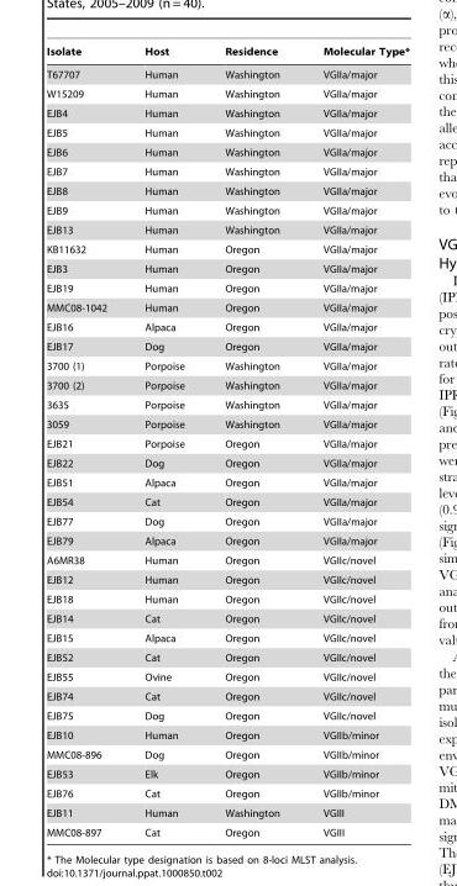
<table><thead><tr><td>Isolate</td><td>Host</td><td>Residence</td><td>Molecular Type*</td></tr></thead><tbody><tr><td>T67707</td><td>Human</td><td>Washington</td><td>VGIIa/major</td></tr><tr><td>W15209</td><td>Human</td><td>Washington</td><td>VGIIa/major</td></tr><tr><td>EJB4</td><td>Human</td><td>Washington</td><td>VGIIa/major</td></tr><tr><td>EJB5</td><td>Human</td><td>Washington</td><td>VGIIa/major</td></tr><tr><td>EJB6</td><td>Human</td><td>Washington</td><td>VGIIa/major</td></tr><tr><td>EJB7</td><td>Human</td><td>Washington</td><td>VGIIa/major</td></tr><tr><td>EJB8</td><td>Human</td><td>Washington</td><td>VGIIa/major</td></tr><tr><td>EJB9</td><td>Human</td><td>Washington</td><td>VGIIa/major</td></tr><tr><td>EJB13</td><td>Human</td><td>Washington</td><td>VGIIa/major</td></tr><tr><td>KB11632</td><td>Human</td><td>Oregon</td><td>VGIIa/major</td></tr><tr><td>EJB3</td><td>Human</td><td>Oregon</td><td>VGIIa/major</td></tr><tr><td>EJB19</td><td>Human</td><td>Oregon</td><td>VGIIa/major</td></tr><tr><td>MMC08-1042</td><td>Human</td><td>Oregon</td><td>VGIIa/major</td></tr><tr><td>EJB16</td><td>Alpaca</td><td>Oregon</td><td>VGIIa/major</td></tr><tr><td>EJB17</td><td>Dog</td><td>Oregon</td><td>VGIIa/major</td></tr><tr><td>3700 (1)</td><td>Porpoise</td><td>Washington</td><td>VGIIa/major</td></tr><tr><td>3700 (2)</td><td>Porpoise</td><td>Washington</td><td>VGIIa/major</td></tr><tr><td>3635</td><td>Porpoise</td><td>Washington</td><td>VGIIa/major</td></tr><tr><td>3059</td><td>Porpoise</td><td>Washington</td><td>VGIIa/major</td></tr><tr><td>EJB21</td><td>Porpoise</td><td>Oregon</td><td>VGIIa/major</td></tr><tr><td>EJB22</td><td>Dog</td><td>Oregon</td><td>VGIIa/major</td></tr><tr><td>EJB51</td><td>Alpaca</td><td>Oregon</td><td>VGIIa/major</td></tr><tr><td>EJB54</td><td>Cat</td><td>Oregon</td><td>VGIIa/major</td></tr><tr><td>EJB77</td><td>Dog</td><td>Oregon</td><td>VGIIa/major</td></tr><tr><td>EJB79</td><td>Alpaca</td><td>Oregon</td><td>VGIIa/major</td></tr><tr><td>A6MR38</td><td>Human</td><td>Oregon</td><td>VGIIc/novel</td></tr><tr><td>EJB12</td><td>Human</td><td>Oregon</td><td>VGIIc/novel</td></tr><tr><td>EJB18</td><td>Human</td><td>Oregon</td><td>VGIIc/novel</td></tr><tr><td>EJB14</td><td>Cat</td><td>Oregon</td><td>VGIIc/novel</td></tr><tr><td>EJB15</td><td>Alpaca</td><td>Oregon</td><td>VGIIc/novel</td></tr><tr><td>EJB52</td><td>Cat</td><td>Oregon</td><td>VGIIc/novel</td></tr><tr><td>EJB55</td><td>Ovine</td><td>Oregon</td><td>VGIIc/novel</td></tr><tr><td>EJB74</td><td>Cat</td><td>Oregon</td><td>VGIIc/novel</td></tr><tr><td>EJB75</td><td>Dog</td><td>Oregon</td><td>VGIIc/novel</td></tr><tr><td>EJB10</td><td>Human</td><td>Oregon</td><td>VGIIb/minor</td></tr><tr><td>MMC08-896</td><td>Dog</td><td>Oregon</td><td>VGIIb/minor</td></tr><tr><td>EJB53</td><td>Elk</td><td>Oregon</td><td>VGIIb/minor</td></tr><tr><td>EJB76</td><td>Cat</td><td>Oregon</td><td>VGIIb/minor</td></tr><tr><td>EJB11</td><td>Human</td><td>Washington</td><td>VGIII</td></tr><tr><td>MMC08-897</td><td>Cat</td><td>Oregon</td><td>VGIII</td></tr></tbody></table>